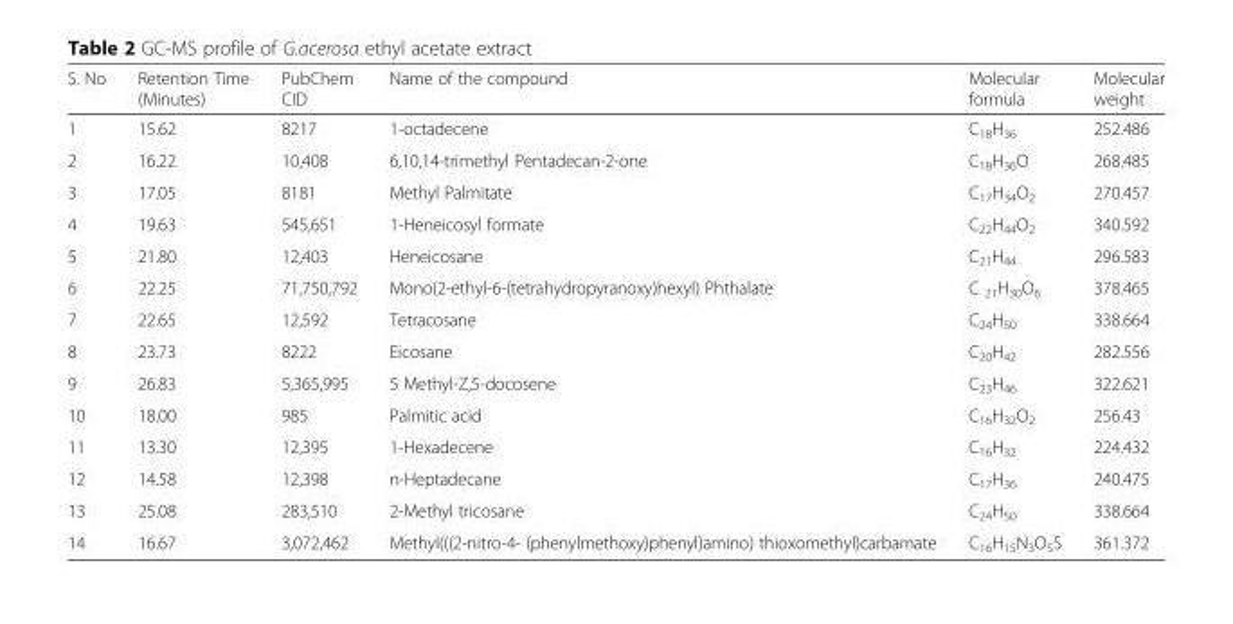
<table><thead><tr><td>S. No</td><td>Retention Time (Minutes)</td><td>PubChem CID</td><td>Name of the compound</td><td>Molecular formula</td><td>Molecular weight</td></tr></thead><tbody><tr><td>1</td><td>15.62</td><td>8217</td><td>1-octadecene</td><td>C<sub>18</sub>H<sub>36</sub></td><td>252.486</td></tr><tr><td>2</td><td>16.22</td><td>10,408</td><td>6,10,14-trimethyl Pentadecan-2-one</td><td>C<sub>18</sub>H<sub>36</sub>O</td><td>268.485</td></tr><tr><td>3</td><td>17.05</td><td>8181</td><td>Methyl Palmitate</td><td>C<sub>17</sub>H<sub>34</sub>O<sub>2</sub></td><td>270.457</td></tr><tr><td>4</td><td>19.63</td><td>545,651</td><td>1-Heneicosyl formate</td><td>C<sub>22</sub>H<sub>44</sub>O<sub>2</sub></td><td>340.592</td></tr><tr><td>5</td><td>21.80</td><td>12,403</td><td>Heneicosane</td><td>C<sub>21</sub>H<sub>44</sub></td><td>296.583</td></tr><tr><td>6</td><td>22.25</td><td>71,750,792</td><td>Mono(2-ethyl-6-(tetrahydropyranoxy)hexyl) Phthalate</td><td>C <sub>21</sub>H<sub>30</sub>O<sub>6</sub></td><td>378.465</td></tr><tr><td>7</td><td>22.65</td><td>12,592</td><td>Tetracosane</td><td>C<sub>24</sub>H<sub>50</sub></td><td>338.664</td></tr><tr><td>8</td><td>23.73</td><td>8222</td><td>Eicosane</td><td>C<sub>20</sub>H<sub>42</sub></td><td>282.556</td></tr><tr><td>9</td><td>26.83</td><td>5,365,995</td><td>5 Methyl-Z,5-docosene</td><td>C<sub>23</sub>H<sub>46</sub></td><td>322.621</td></tr><tr><td>10</td><td>18.00</td><td>985</td><td>Palmitic acid</td><td>C<sub>16</sub>H<sub>32</sub>O<sub>2</sub></td><td>256.43</td></tr><tr><td>11</td><td>13.30</td><td>12,395</td><td>1-Hexadecene</td><td>C<sub>16</sub>H<sub>32</sub></td><td>224.432</td></tr><tr><td>12</td><td>14.58</td><td>12,398</td><td>n-Heptadecane</td><td>C<sub>17</sub>H<sub>36</sub></td><td>240.475</td></tr><tr><td>13</td><td>25.08</td><td>283,510</td><td>2-Methyl tricosane</td><td>C<sub>24</sub>H<sub>50</sub></td><td>338.664</td></tr><tr><td>14</td><td>16.67</td><td>3,072,462</td><td>Methyl(((2-nitro-4- (phenylmethoxy)phenyl)amino) thioxomethyl)carbamate</td><td>C<sub>16</sub>H<sub>15</sub>N<sub>3</sub>O<sub>5</sub>S</td><td>361.372</td></tr></tbody></table>